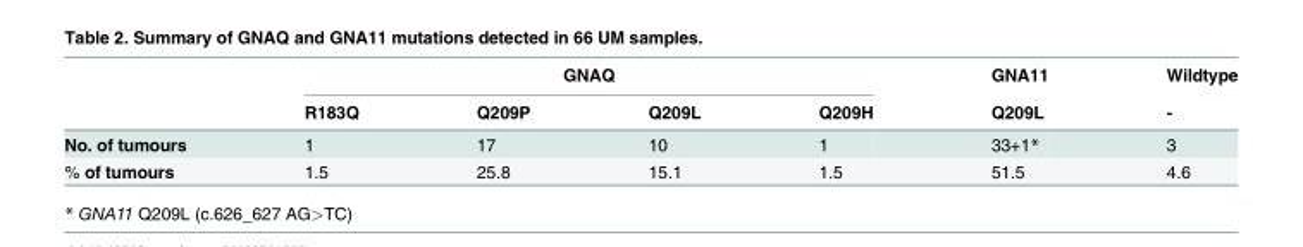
<table><thead><tr><td rowspan="2"></td><td colspan="4">GNAQ</td><td rowspan="2">GNA11 Q209L</td><td rowspan="2">Wildtype -</td></tr><tr><td>R183Q</td><td>Q209P</td><td>Q209L</td><td>Q209H</td></tr></thead><tbody><tr><td>No. of tumours</td><td>1</td><td>17</td><td>10</td><td>1</td><td>33+1*</td><td>3</td></tr><tr><td>% of tumours</td><td>1.5</td><td>25.8</td><td>15.1</td><td>1.5</td><td>51.5</td><td>4.6</td></tr></tbody></table>